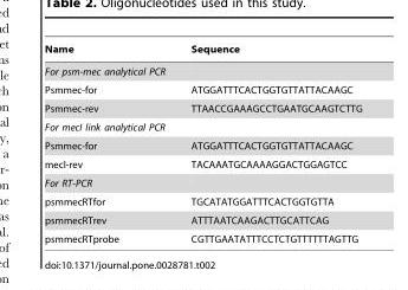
<table><thead><tr><td>Name</td><td>Sequence</td></tr></thead><tbody><tr><td colspan="2">For psm-mec analytical PCR</td></tr><tr><td>Psmmec-for</td><td>ATGGATTTCACTGGTGTTATTACAAGC</td></tr><tr><td>Psmmec-rev</td><td>TTAACCGAAAGCCTGAATGCAAGTCTTG</td></tr><tr><td colspan="2">For mecI link analytical PCR</td></tr><tr><td>Psmmec-for</td><td>ATGGATTTCACTGGTGTTATTACAAGC</td></tr><tr><td>mecI-rev</td><td>TACAAATGCAAAAGGACTGGAGTCC</td></tr><tr><td colspan="2">For RT-PCR</td></tr><tr><td>psmmecRTfor</td><td>TGCATATGGATTTCACTGGTGTTA</td></tr><tr><td>psmmecRTrev</td><td>ATTTAATCAAGACTTGCATTCAG</td></tr><tr><td>psmmecRTprobe</td><td>CGTTGAATATTTCCTCTGTTTTTTAGTTG</td></tr></tbody></table>